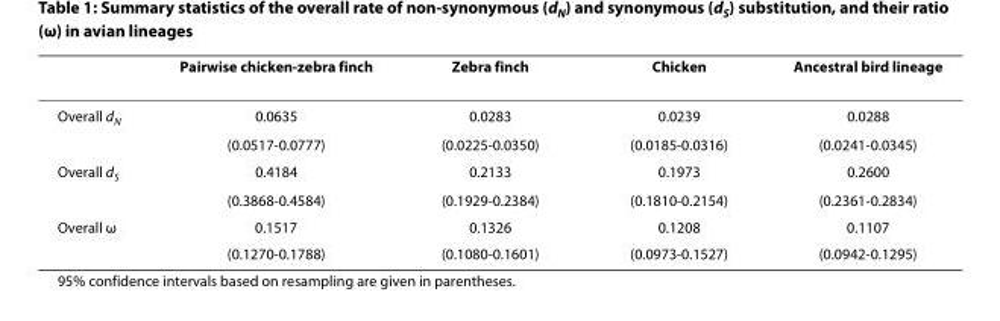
<table><thead><tr><td></td><td>Pairwise chicken-zebra finch</td><td>Zebra finch</td><td>Chicken</td><td>Ancestral bird lineage</td></tr></thead><tbody><tr><td rowspan="2">Overall d<sub>N</sub></td><td>0.0635</td><td>0.0283</td><td>0.0239</td><td>0.0288</td></tr><tr><td>(0.0517-0.0777)</td><td>(0.0225-0.0350)</td><td>(0.0185-0.0316)</td><td>(0.0241-0.0345)</td></tr><tr><td rowspan="2">Overall d<sub>S</sub></td><td>0.4184</td><td>0.2133</td><td>0.1973</td><td>0.2600</td></tr><tr><td>(0.3868-0.4584)</td><td>(0.1929-0.2384)</td><td>(0.1810-0.2154)</td><td>(0.2361-0.2834)</td></tr><tr><td rowspan="2">Overall ω</td><td>0.1517</td><td>0.1326</td><td>0.1208</td><td>0.1107</td></tr><tr><td>(0.1270-0.1788)</td><td>(0.1080-0.1601)</td><td>(0.0973-0.1527)</td><td>(0.0942-0.1295)</td></tr></tbody></table>